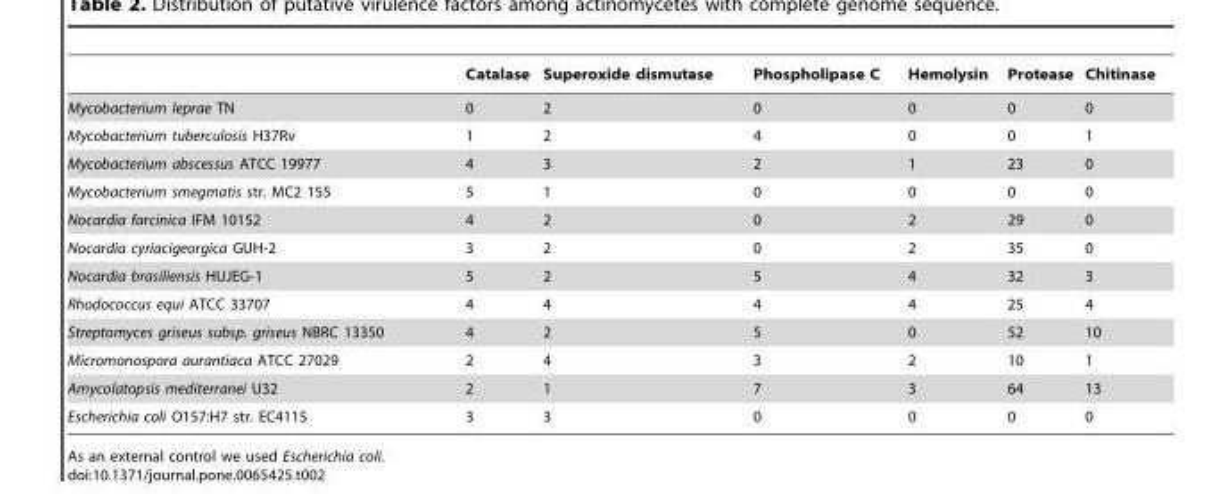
<table><thead><tr><td></td><td>Catalase</td><td>Superoxide dismutase</td><td>Phospholipase C</td><td>Hemolysin</td><td>Protease</td><td>Chitinase</td></tr></thead><tbody><tr><td>Mycobacterium leprae TN</td><td>0</td><td>2</td><td>0</td><td>0</td><td>0</td><td>0</td></tr><tr><td>Mycobacterium tuberculosis H37Rv</td><td>1</td><td>2</td><td>4</td><td>0</td><td>0</td><td>1</td></tr><tr><td>Mycobacterium abscessus ATCC 19977</td><td>4</td><td>3</td><td>2</td><td>1</td><td>23</td><td>0</td></tr><tr><td>Mycobacterium smegmatis str. MC2 155</td><td>5</td><td>1</td><td>0</td><td>0</td><td>0</td><td>0</td></tr><tr><td>Nocardia farcinica IFM 10152</td><td>4</td><td>2</td><td>0</td><td>2</td><td>29</td><td>0</td></tr><tr><td>Nocardia cyriacigeorgica GUH-2</td><td>3</td><td>2</td><td>0</td><td>2</td><td>35</td><td>0</td></tr><tr><td>Nocardia brasiliensis HUJEG-1</td><td>5</td><td>2</td><td>5</td><td>4</td><td>32</td><td>3</td></tr><tr><td>Rhodococcus equi ATCC 33707</td><td>4</td><td>4</td><td>4</td><td>4</td><td>25</td><td>4</td></tr><tr><td>Streptomyces griseus subsp. griseus NBRC 13350</td><td>4</td><td>2</td><td>5</td><td>0</td><td>52</td><td>10</td></tr><tr><td>Micromonospora aurantiaca ATCC 27029</td><td>2</td><td>4</td><td>3</td><td>2</td><td>10</td><td>1</td></tr><tr><td>Amycolatopsis mediterranei U32</td><td>2</td><td>1</td><td>7</td><td>3</td><td>64</td><td>13</td></tr><tr><td>Escherichia coli O157:H7 str. EC4115</td><td>3</td><td>3</td><td>0</td><td>0</td><td>0</td><td>0</td></tr></tbody></table>